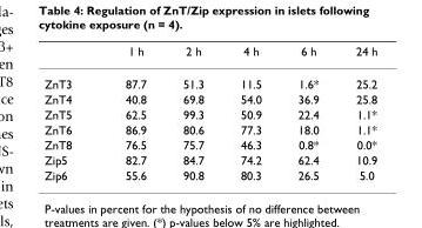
<table><thead><tr><td></td><td>1 h</td><td>2 h</td><td>4 h</td><td>6 h</td><td>24 h</td></tr></thead><tbody><tr><td>ZnT3</td><td>87.7</td><td>51.3</td><td>11.5</td><td>1.6*</td><td>25.2</td></tr><tr><td>ZnT4</td><td>40.8</td><td>69.8</td><td>54.0</td><td>36.9</td><td>25.8</td></tr><tr><td>ZnT5</td><td>62.5</td><td>99.3</td><td>50.9</td><td>22.4</td><td>1.1*</td></tr><tr><td>ZnT6</td><td>86.9</td><td>80.6</td><td>77.3</td><td>18.0</td><td>1.1*</td></tr><tr><td>ZnT8</td><td>76.5</td><td>75.7</td><td>46.3</td><td>0.8*</td><td>0.0*</td></tr><tr><td>Zip5</td><td>82.7</td><td>84.7</td><td>74.2</td><td>62.4</td><td>10.9</td></tr><tr><td>Zip6</td><td>55.6</td><td>90.8</td><td>80.3</td><td>26.5</td><td>5.0</td></tr></tbody></table>